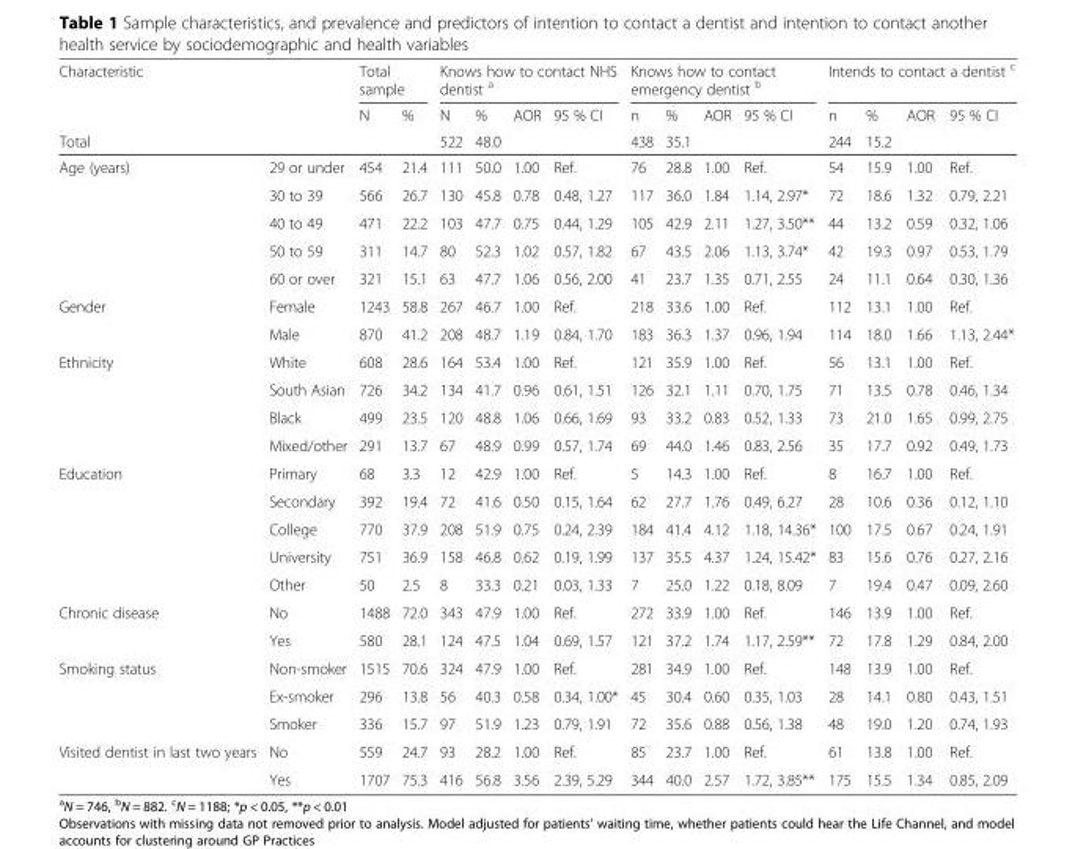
<table><thead><tr><td rowspan="2">Characteristic</td><td rowspan="2"></td><td colspan="2">Total sample</td><td colspan="4">Knows how to contact NHS dentist <sup>a</sup></td><td colspan="4">Knows how to contact emergency dentist <sup>b</sup></td><td colspan="4">Intends to contact a dentist <sup>c</sup></td></tr><tr><td rowspan="2">N</td><td rowspan="2">%</td><td rowspan="2">N 522</td><td rowspan="2">% 48.0</td><td rowspan="2">AOR</td><td rowspan="2">95 % CI</td><td rowspan="2">n 438</td><td rowspan="2">% 35.1</td><td rowspan="2">AOR</td><td rowspan="2">95 % CI</td><td rowspan="2">n 244</td><td rowspan="2">% 15.2</td><td rowspan="2">AOR</td><td rowspan="2">95 % CI</td></tr><tr><td colspan="2">Total</td></tr></thead><tbody><tr><td rowspan="5">Age (years)</td><td>29 or under</td><td>454</td><td>21.4</td><td>111</td><td>50.0</td><td>1.00</td><td>Ref.</td><td>76</td><td>28.8</td><td>1.00</td><td>Ref.</td><td>54</td><td>15.9</td><td>1.00</td><td>Ref.</td></tr><tr><td>30 to 39</td><td>566</td><td>26.7</td><td>130</td><td>45.8</td><td>0.78</td><td>0.48, 1.27</td><td>117</td><td>36.0</td><td>1.84</td><td>1.14, 2.97*</td><td>72</td><td>18.6</td><td>1.32</td><td>0.79, 2.21</td></tr><tr><td>40 to 49</td><td>471</td><td>22.2</td><td>103</td><td>47.7</td><td>0.75</td><td>0.44, 1.29</td><td>105</td><td>42.9</td><td>2.11</td><td>1.27, 3.50**</td><td>44</td><td>13.2</td><td>0.59</td><td>0.32, 1.06</td></tr><tr><td>50 to 59</td><td>311</td><td>14.7</td><td>80</td><td>52.3</td><td>1.02</td><td>0.57, 1.82</td><td>67</td><td>43.5</td><td>2.06</td><td>1.13, 3.74*</td><td>42</td><td>19.3</td><td>0.97</td><td>0.53, 1.79</td></tr><tr><td>60 or over</td><td>321</td><td>15.1</td><td>63</td><td>47.7</td><td>1.06</td><td>0.56, 2.00</td><td>41</td><td>23.7</td><td>1.35</td><td>0.71, 2.55</td><td>24</td><td>11.1</td><td>0.64</td><td>0.30, 1.36</td></tr><tr><td rowspan="2">Gender</td><td>Female</td><td>1243</td><td>58.8</td><td>267</td><td>46.7</td><td>1.00</td><td>Ref.</td><td>218</td><td>33.6</td><td>1.00</td><td>Ref.</td><td>112</td><td>13.1</td><td>1.00</td><td>Ref.</td></tr><tr><td>Male</td><td>870</td><td>41.2</td><td>208</td><td>48.7</td><td>1.19</td><td>0.84, 1.70</td><td>183</td><td>36.3</td><td>1.37</td><td>0.96, 1.94</td><td>114</td><td>18.0</td><td>1.66</td><td>1.13, 2.44*</td></tr><tr><td rowspan="4">Ethnicity</td><td>White</td><td>608</td><td>28.6</td><td>164</td><td>53.4</td><td>1.00</td><td>Ref.</td><td>121</td><td>35.9</td><td>1.00</td><td>Ref.</td><td>56</td><td>13.1</td><td>1.00</td><td>Ref.</td></tr><tr><td>South Asian</td><td>726</td><td>34.2</td><td>134</td><td>41.7</td><td>0.96</td><td>0.61, 1.51</td><td>126</td><td>32.1</td><td>1.11</td><td>0.70, 1.75</td><td>71</td><td>13.5</td><td>0.78</td><td>0.46, 1.34</td></tr><tr><td>Black</td><td>499</td><td>23.5</td><td>120</td><td>48.8</td><td>1.06</td><td>0.66, 1.69</td><td>93</td><td>33.2</td><td>0.83</td><td>0.52, 1.33</td><td>73</td><td>21.0</td><td>1.65</td><td>0.99, 2.75</td></tr><tr><td>Mixed/other</td><td>291</td><td>13.7</td><td>67</td><td>48.9</td><td>0.99</td><td>0.57, 1.74</td><td>69</td><td>44.0</td><td>1.46</td><td>0.83, 2.56</td><td>35</td><td>17.7</td><td>0.92</td><td>0.49, 1.73</td></tr><tr><td rowspan="5">Education</td><td>Primary</td><td>68</td><td>3.3</td><td>12</td><td>42.9</td><td>1.00</td><td>Ref.</td><td>5</td><td>14.3</td><td>1.00</td><td>Ref.</td><td>8</td><td>16.7</td><td>1.00</td><td>Ref.</td></tr><tr><td>Secondary</td><td>392</td><td>19.4</td><td>72</td><td>41.6</td><td>0.50</td><td>0.15, 1.64</td><td>62</td><td>27.7</td><td>1.76</td><td>0.49, 6.27</td><td>28</td><td>10.6</td><td>0.36</td><td>0.12, 1.10</td></tr><tr><td>College</td><td>770</td><td>37.9</td><td>208</td><td>51.9</td><td>0.75</td><td>0.24, 2.39</td><td>184</td><td>41.4</td><td>4.12</td><td>1.18, 14.36*</td><td>100</td><td>17.5</td><td>0.67</td><td>0.24, 1.91</td></tr><tr><td>University</td><td>751</td><td>36.9</td><td>158</td><td>46.8</td><td>0.62</td><td>0.19, 1.99</td><td>137</td><td>35.5</td><td>4.37</td><td>1.24, 15.42*</td><td>83</td><td>15.6</td><td>0.76</td><td>0.27, 2.16</td></tr><tr><td>Other</td><td>50</td><td>2.5</td><td>8</td><td>33.3</td><td>0.21</td><td>0.03, 1.33</td><td>7</td><td>25.0</td><td>1.22</td><td>0.18, 8.09</td><td>7</td><td>19.4</td><td>0.47</td><td>0.09, 2.60</td></tr><tr><td rowspan="2">Chronic disease</td><td>No</td><td>1488</td><td>72.0</td><td>343</td><td>47.9</td><td>1.00</td><td>Ref.</td><td>272</td><td>33.9</td><td>1.00</td><td>Ref.</td><td>146</td><td>13.9</td><td>1.00</td><td>Ref.</td></tr><tr><td>Yes</td><td>580</td><td>28.1</td><td>124</td><td>47.5</td><td>1.04</td><td>0.69, 1.57</td><td>121</td><td>37.2</td><td>1.74</td><td>1.17, 2.59**</td><td>72</td><td>17.8</td><td>1.29</td><td>0.84, 2.00</td></tr><tr><td rowspan="3">Smoking status</td><td>Non-smoker</td><td>1515</td><td>70.6</td><td>324</td><td>47.9</td><td>1.00</td><td>Ref.</td><td>281</td><td>34.9</td><td>1.00</td><td>Ref.</td><td>148</td><td>13.9</td><td>1.00</td><td>Ref.</td></tr><tr><td>Ex-smoker</td><td>296</td><td>13.8</td><td>56</td><td>40.3</td><td>0.58</td><td>0.34, 1.00*</td><td>45</td><td>30.4</td><td>0.60</td><td>0.35, 1.03</td><td>28</td><td>14.1</td><td>0.80</td><td>0.43, 1.51</td></tr><tr><td>Smoker</td><td>336</td><td>15.7</td><td>97</td><td>51.9</td><td>1.23</td><td>0.79, 1.91</td><td>72</td><td>35.6</td><td>0.88</td><td>0.56, 1.38</td><td>48</td><td>19.0</td><td>1.20</td><td>0.74, 1.93</td></tr><tr><td rowspan="2">Visited dentist in last two years</td><td>No</td><td>559</td><td>24.7</td><td>93</td><td>28.2</td><td>1.00</td><td>Ref.</td><td>85</td><td>23.7</td><td>1.00</td><td>Ref.</td><td>61</td><td>13.8</td><td>1.00</td><td>Ref.</td></tr><tr><td>Yes</td><td>1707</td><td>75.3</td><td>416</td><td>56.8</td><td>3.56</td><td>2.39, 5.29</td><td>344</td><td>40.0</td><td>2.57</td><td>1.72, 3.85**</td><td>175</td><td>15.5</td><td>1.34</td><td>0.85, 2.09</td></tr></tbody></table>